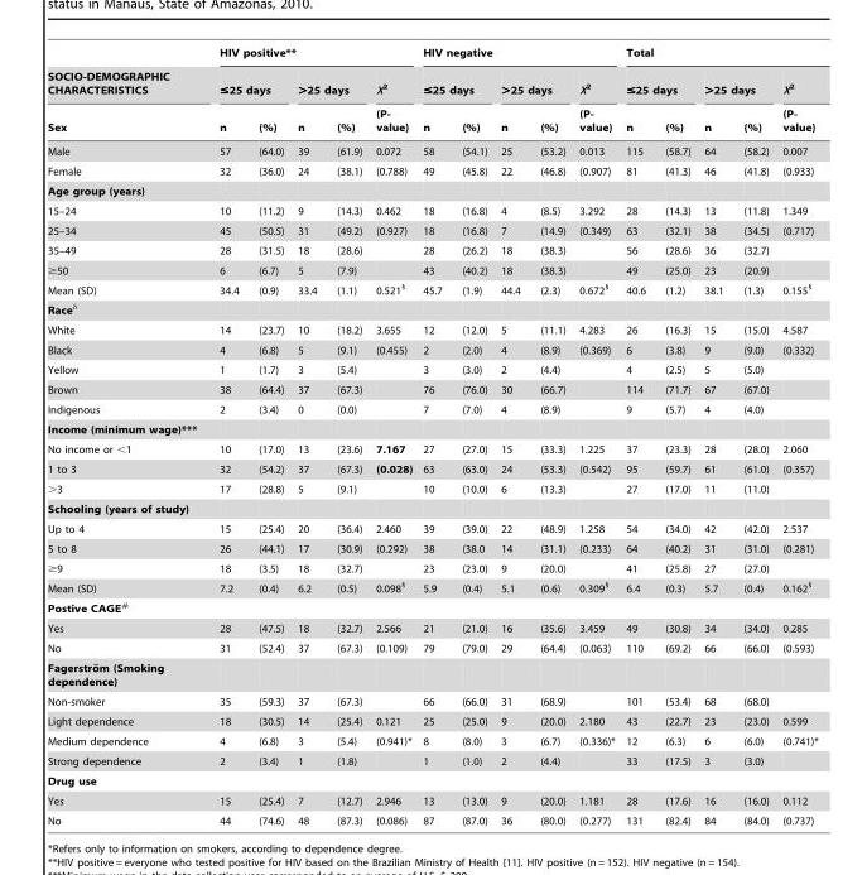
<table><thead><tr><td rowspan="3">SOCIO-DEMOGRAPHIC CHARACTERISTICS Sex</td><td colspan="5">HIV positive**</td><td colspan="5">HIV negative</td><td colspan="5">Total</td></tr><tr><td colspan="2">≤25 days</td><td colspan="2">&gt;25 days</td><td rowspan="2">X<sup>2</sup> (P- value)</td><td colspan="2">≤25 days</td><td colspan="2">&gt;25 days</td><td rowspan="2">X<sup>2</sup> (P- value)</td><td colspan="2">≤25 days</td><td colspan="2">&gt;25 days</td><td rowspan="2">X<sup>2</sup> (P- value)</td></tr><tr><td>n</td><td>(%)</td><td>n</td><td>(%)</td><td>n</td><td>(%)</td><td>n</td><td>(%)</td><td>n</td><td>(%)</td><td>n</td><td>(%)</td></tr></thead><tbody><tr><td>Male</td><td>57</td><td>(64.0)</td><td>39</td><td>(61.9)</td><td>0.072</td><td>58</td><td>(54.1)</td><td>25</td><td>(53.2)</td><td>0.013</td><td>115</td><td>(58.7)</td><td>64</td><td>(58.2)</td><td>0.007</td></tr><tr><td>Female</td><td>32</td><td>(36.0)</td><td>24</td><td>(38.1)</td><td>(0.788)</td><td>49</td><td>(45.8)</td><td>22</td><td>(46.8)</td><td>(0.907)</td><td>81</td><td>(41.3)</td><td>46</td><td>(41.8)</td><td>(0.933)</td></tr><tr><td colspan="16">Age group (years)</td></tr><tr><td>15–24</td><td>10</td><td>(11.2)</td><td>9</td><td>(14.3)</td><td>0.462</td><td>18</td><td>(16.8)</td><td>4</td><td>(8.5)</td><td>3.292</td><td>28</td><td>(14.3)</td><td>13</td><td>(11.8)</td><td>1.349</td></tr><tr><td>25–34</td><td>45</td><td>(50.5)</td><td>31</td><td>(49.2)</td><td>(0.927)</td><td>18</td><td>(16.8)</td><td>7</td><td>(14.9)</td><td>(0.349)</td><td>63</td><td>(32.1)</td><td>38</td><td>(34.5)</td><td>(0.717)</td></tr><tr><td>35–49</td><td>28</td><td>(31.5)</td><td>18</td><td>(28.6)</td><td></td><td>28</td><td>(26.2)</td><td>18</td><td>(38.3)</td><td></td><td>56</td><td>(28.6)</td><td>36</td><td>(32.7)</td><td></td></tr><tr><td>≥50</td><td>6</td><td>(6.7)</td><td>5</td><td>(7.9)</td><td></td><td>43</td><td>(40.2)</td><td>18</td><td>(38.3)</td><td></td><td>49</td><td>(25.0)</td><td>23</td><td>(20.9)</td><td></td></tr><tr><td>Mean (SD)</td><td>34.4</td><td>(0.9)</td><td>33.4</td><td>(1.1)</td><td>0.521§</td><td>45.7</td><td>(1.9)</td><td>44.4</td><td>(2.3)</td><td>0.672§</td><td>40.6</td><td>(1.2)</td><td>38.1</td><td>(1.3)</td><td>0.155§</td></tr><tr><td colspan="16">Raceδ</td></tr><tr><td>White</td><td>14</td><td>(23.7)</td><td>10</td><td>(18.2)</td><td>3.655</td><td>12</td><td>(12.0)</td><td>5</td><td>(11.1)</td><td>4.283</td><td>26</td><td>(16.3)</td><td>15</td><td>(15.0)</td><td>4.587</td></tr><tr><td>Black</td><td>4</td><td>(6.8)</td><td>5</td><td>(9.1)</td><td>(0.455)</td><td>2</td><td>(2.0)</td><td>4</td><td>(8.9)</td><td>(0.369)</td><td>6</td><td>(3.8)</td><td>9</td><td>(9.0)</td><td>(0.332)</td></tr><tr><td>Yellow</td><td>1</td><td>(1.7)</td><td>3</td><td>(5.4)</td><td></td><td>3</td><td>(3.0)</td><td>2</td><td>(4.4)</td><td></td><td>4</td><td>(2.5)</td><td>5</td><td>(5.0)</td><td></td></tr><tr><td>Brown</td><td>38</td><td>(64.4)</td><td>37</td><td>(67.3)</td><td></td><td>76</td><td>(76.0)</td><td>30</td><td>(66.7)</td><td></td><td>114</td><td>(71.7)</td><td>67</td><td>(67.0)</td><td></td></tr><tr><td>Indigenous</td><td>2</td><td>(3.4)</td><td>0</td><td>(0.0)</td><td></td><td>7</td><td>(7.0)</td><td>4</td><td>(8.9)</td><td></td><td>9</td><td>(5.7)</td><td>4</td><td>(4.0)</td><td></td></tr><tr><td colspan="16">Income (minimum wage)***</td></tr><tr><td>No income or &lt;1</td><td>10</td><td>(17.0)</td><td>13</td><td>(23.6)</td><td>7.167</td><td>27</td><td>(27.0)</td><td>15</td><td>(33.3)</td><td>1.225</td><td>37</td><td>(23.3)</td><td>28</td><td>(28.0)</td><td>2.060</td></tr><tr><td>1 to 3</td><td>32</td><td>(54.2)</td><td>37</td><td>(67.3)</td><td>(0.028)</td><td>63</td><td>(63.0)</td><td>24</td><td>(53.3)</td><td>(0.542)</td><td>95</td><td>(59.7)</td><td>61</td><td>(61.0)</td><td>(0.357)</td></tr><tr><td>&gt;3</td><td>17</td><td>(28.8)</td><td>5</td><td>(9.1)</td><td></td><td>10</td><td>(10.0)</td><td>6</td><td>(13.3)</td><td></td><td>27</td><td>(17.0)</td><td>11</td><td>(11.0)</td><td></td></tr><tr><td colspan="16">Schooling (years of study)</td></tr><tr><td>Up to 4</td><td>15</td><td>(25.4)</td><td>20</td><td>(36.4)</td><td>2.460</td><td>39</td><td>(39.0)</td><td>22</td><td>(48.9)</td><td>1.258</td><td>54</td><td>(34.0)</td><td>42</td><td>(42.0)</td><td>2.537</td></tr><tr><td>5 to 8</td><td>26</td><td>(44.1)</td><td>17</td><td>(30.9)</td><td>(0.292)</td><td>38</td><td>(38.0</td><td>14</td><td>(31.1)</td><td>(0.233)</td><td>64</td><td>(40.2)</td><td>31</td><td>(31.0)</td><td>(0.281)</td></tr><tr><td>≥9</td><td>18</td><td>(3.5)</td><td>18</td><td>(32.7)</td><td></td><td>23</td><td>(23.0)</td><td>9</td><td>(20.0)</td><td></td><td>41</td><td>(25.8)</td><td>27</td><td>(27.0)</td><td></td></tr><tr><td>Mean (SD)</td><td>7.2</td><td>(0.4)</td><td>6.2</td><td>(0.5)</td><td>0.098§</td><td>5.9</td><td>(0.4)</td><td>5.1</td><td>(0.6)</td><td>0.309§</td><td>6.4</td><td>(0.3)</td><td>5.7</td><td>(0.4)</td><td>0.162§</td></tr><tr><td colspan="16">Postive CAGE#</td></tr><tr><td>Yes</td><td>28</td><td>(47.5)</td><td>18</td><td>(32.7)</td><td>2.566</td><td>21</td><td>(21.0)</td><td>16</td><td>(35.6)</td><td>3.459</td><td>49</td><td>(30.8)</td><td>34</td><td>(34.0)</td><td>0.285</td></tr><tr><td>No</td><td>31</td><td>(52.4)</td><td>37</td><td>(67.3)</td><td>(0.109)</td><td>79</td><td>(79.0)</td><td>29</td><td>(64.4)</td><td>(0.063)</td><td>110</td><td>(69.2)</td><td>66</td><td>(66.0)</td><td>(0.593)</td></tr><tr><td colspan="16">Fagerstro¨ m (Smoking dependence)</td></tr><tr><td>Non-smoker</td><td>35</td><td>(59.3)</td><td>37</td><td>(67.3)</td><td></td><td>66</td><td>(66.0)</td><td>31</td><td>(68.9)</td><td></td><td>101</td><td>(53.4)</td><td>68</td><td>(68.0)</td><td></td></tr><tr><td>Light dependence</td><td>18</td><td>(30.5)</td><td>14</td><td>(25.4)</td><td>0.121</td><td>25</td><td>(25.0)</td><td>9</td><td>(20.0)</td><td>2.180</td><td>43</td><td>(22.7)</td><td>23</td><td>(23.0)</td><td>0.599</td></tr><tr><td>Medium dependence</td><td>4</td><td>(6.8)</td><td>3</td><td>(5.4)</td><td>(0.941)*</td><td>8</td><td>(8.0)</td><td>3</td><td>(6.7)</td><td>(0.336)*</td><td>12</td><td>(6.3)</td><td>6</td><td>(6.0)</td><td>(0.741)*</td></tr><tr><td>Strong dependence</td><td>2</td><td>(3.4)</td><td>1</td><td>(1.8)</td><td></td><td>1</td><td>(1.0)</td><td>2</td><td>(4.4)</td><td></td><td>33</td><td>(17.5)</td><td>3</td><td>(3.0)</td><td></td></tr><tr><td colspan="16">Drug use</td></tr><tr><td>Yes</td><td>15</td><td>(25.4)</td><td>7</td><td>(12.7)</td><td>2.946</td><td>13</td><td>(13.0)</td><td>9</td><td>(20.0)</td><td>1.181</td><td>28</td><td>(17.6)</td><td>16</td><td>(16.0)</td><td>0.112</td></tr><tr><td>No</td><td>44</td><td>(74.6)</td><td>48</td><td>(87.3)</td><td>(0.086)</td><td>87</td><td>(87.0)</td><td>36</td><td>(80.0)</td><td>(0.277)</td><td>131</td><td>(82.4)</td><td>84</td><td>(84.0)</td><td>(0.737)</td></tr></tbody></table>